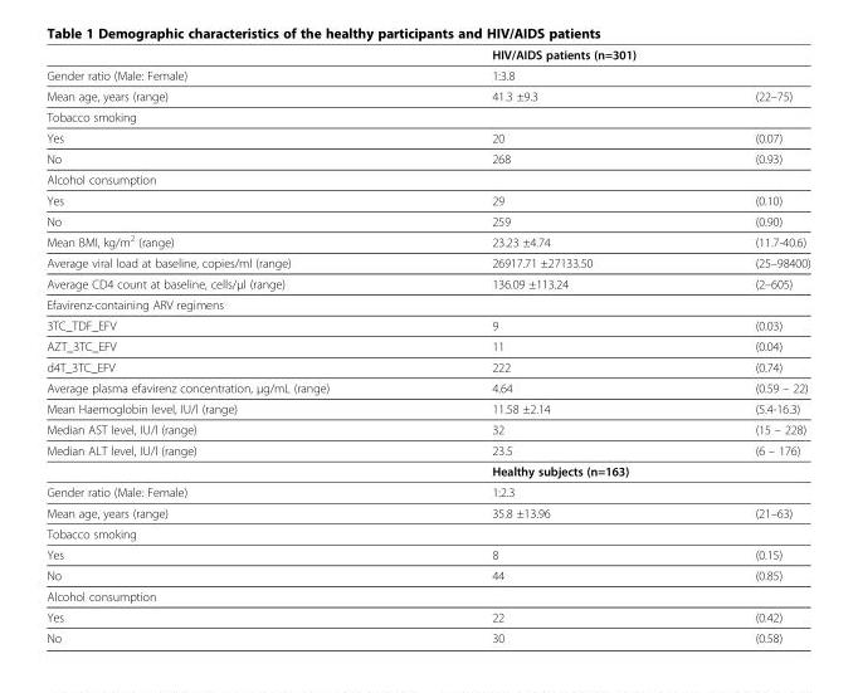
<table><thead><tr><td rowspan="2">Gender ratio (Male: Female)</td><td colspan="2">HIV/AIDS patients (n=301)</td></tr><tr><td>1:3.8</td><td></td></tr></thead><tbody><tr><td>Mean age, years (range)</td><td>41.3 ±9.3</td><td>(22–75)</td></tr><tr><td colspan="3">Tobacco smoking</td></tr><tr><td>Yes</td><td>20</td><td>(0.07)</td></tr><tr><td>No</td><td>268</td><td>(0.93)</td></tr><tr><td colspan="3">Alcohol consumption</td></tr><tr><td>Yes</td><td>29</td><td>(0.10)</td></tr><tr><td>No</td><td>259</td><td>(0.90)</td></tr><tr><td>Mean BMI, kg/m<sup>2</sup> (range)</td><td>23.23 ±4.74</td><td>(11.7-40.6)</td></tr><tr><td>Average viral load at baseline, copies/ml (range)</td><td>26917.71 ±27133.50</td><td>(25–98400)</td></tr><tr><td>Average CD4 count at baseline, cells/μl (range)</td><td>136.09 ±113.24</td><td>(2–605)</td></tr><tr><td colspan="3">Efavirenz-containing ARV regimens</td></tr><tr><td>3TC_TDF_EFV</td><td>9</td><td>(0.03)</td></tr><tr><td>AZT_3TC_EFV</td><td>11</td><td>(0.04)</td></tr><tr><td>d4T_3TC_EFV</td><td>222</td><td>(0.74)</td></tr><tr><td>Average plasma efavirenz concentration, μg/mL (range)</td><td>4.64</td><td>(0.59 – 22)</td></tr><tr><td>Mean Haemoglobin level, IU/l (range)</td><td>11.58 ±2.14</td><td>(5.4-16.3)</td></tr><tr><td>Median AST level, IU/l (range)</td><td>32</td><td>(15 – 228)</td></tr><tr><td rowspan="2">Median ALT level, IU/l (range)</td><td>23.5</td><td>(6 – 176)</td></tr><tr><td colspan="2">Healthy subjects (n=163)</td></tr><tr><td>Gender ratio (Male: Female)</td><td>1:2.3</td><td></td></tr><tr><td>Mean age, years (range)</td><td>35.8 ±13.96</td><td>(21–63)</td></tr><tr><td colspan="3">Tobacco smoking</td></tr><tr><td>Yes</td><td>8</td><td>(0.15)</td></tr><tr><td>No</td><td>44</td><td>(0.85)</td></tr><tr><td colspan="3">Alcohol consumption</td></tr><tr><td>Yes</td><td>22</td><td>(0.42)</td></tr><tr><td>No</td><td>30</td><td>(0.58)</td></tr></tbody></table>